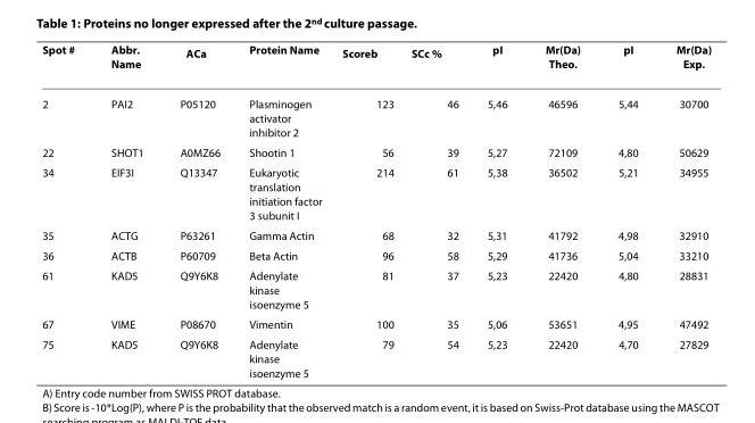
<table><thead><tr><td>Spot #</td><td>Abbr. Name</td><td>AC<sup>a</sup></td><td>Protein Name</td><td>Score<sup>b</sup></td><td>SC<sup>c</sup> %</td><td>pI</td><td>Mr(Da) Theo.</td><td>pI</td><td>Mr(Da) Exp.</td></tr></thead><tbody><tr><td>2</td><td>PAI2</td><td>P05120</td><td>Plasminogen activator inhibitor 2</td><td>123</td><td>46</td><td>5,46</td><td>46596</td><td>5,44</td><td>30700</td></tr><tr><td>22</td><td>SHOT1</td><td>A0MZ66</td><td>Shootin 1</td><td>56</td><td>39</td><td>5,27</td><td>72109</td><td>4,80</td><td>50629</td></tr><tr><td>34</td><td>EIF3I</td><td>Q13347</td><td>Eukaryotic translation initiation factor 3 subunit I</td><td>214</td><td>61</td><td>5,38</td><td>36502</td><td>5,21</td><td>34955</td></tr><tr><td>35</td><td>ACTG</td><td>P63261</td><td>Gamma Actin</td><td>68</td><td>32</td><td>5,31</td><td>41792</td><td>4,98</td><td>32910</td></tr><tr><td>36</td><td>ACTB</td><td>P60709</td><td>Beta Actin</td><td>96</td><td>58</td><td>5,29</td><td>41736</td><td>5,04</td><td>33210</td></tr><tr><td>61</td><td>KAD5</td><td>Q9Y6K8</td><td>Adenylate kinase isoenzyme 5</td><td>81</td><td>37</td><td>5,23</td><td>22420</td><td>4,80</td><td>28831</td></tr><tr><td>67</td><td>VIME</td><td>P08670</td><td>Vimentin</td><td>100</td><td>35</td><td>5,06</td><td>53651</td><td>4,95</td><td>47492</td></tr><tr><td>75</td><td>KAD5</td><td>Q9Y6K8</td><td>Adenylate kinase isoenzyme 5</td><td>79</td><td>54</td><td>5,23</td><td>22420</td><td>4,70</td><td>27829</td></tr></tbody></table>